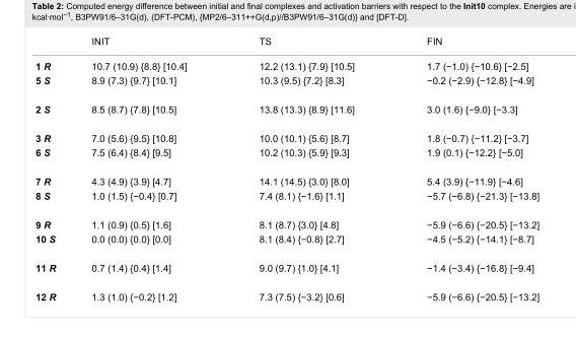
<table><thead><tr><td></td><td>INIT</td><td>TS</td><td>FIN</td></tr></thead><tbody><tr><td>1 R</td><td>10.7 (10.9) {8.8} [10.4]</td><td>12.2 (13.1) {7.9} [10.5]</td><td>1.7 (−1.0) {−10.6} [−2.5]</td></tr><tr><td>5 S</td><td>8.9 (7.3) {9.7} [10.1]</td><td>10.3 (9.5) {7.2} [8.3]</td><td>−0.2 (−2.9) {−12.8} [−4.9]</td></tr><tr><td>2 S</td><td>8.5 (8.7) {7.8} [10.5]</td><td>13.8 (13.3) {8.9} [11.6]</td><td>3.0 (1.6) {−9.0} [−3.3]</td></tr><tr><td>3 R</td><td>7.0 (5.6) {9.5} [10.8]</td><td>10.0 (10.1) {5.6} [8.7]</td><td>1.8 (−0.7) {−11.2} [−3.7]</td></tr><tr><td>6 S</td><td>7.5 (6.4) {8.4} [9.5]</td><td>10.2 (10.3) {5.9} [9.3]</td><td>1.9 (0.1) {−12.2} [−5.0]</td></tr><tr><td>7 R</td><td>4.3 (4.9) {3.9} [4.7]</td><td>14.1 (14.5) {3.0} [8.0]</td><td>5.4 (3.9) {−11.9} [−4.6]</td></tr><tr><td>8 S</td><td>1.0 (1.5) {−0.4} [0.7]</td><td>7.4 (8.1) {−1.6} [1.1]</td><td>−5.7 (−6.8) {−21.3} [−13.8]</td></tr><tr><td>9 R</td><td>1.1 (0.9) {0.5} [1.6]</td><td>8.1 (8.7) {3.0} [4.8]</td><td>−5.9 (−6.6) {−20.5} [−13.2]</td></tr><tr><td>10 S</td><td>0.0 (0.0) {0.0} [0.0]</td><td>8.1 (8.4) {−0.8} [2.7]</td><td>−4.5 (−5.2) {−14.1} [−8.7]</td></tr><tr><td>11 R</td><td>0.7 (1.4) {0.4} [1.4]</td><td>9.0 (9.7) {1.0} [4.1]</td><td>−1.4 (−3.4) {−16.8} [−9.4]</td></tr><tr><td>12 R</td><td>1.3 (1.0) {−0.2} [1.2]</td><td>7.3 (7.5) {−3.2} [0.6]</td><td>−5.9 (−6.6) {−20.5} [−13.2]</td></tr></tbody></table>